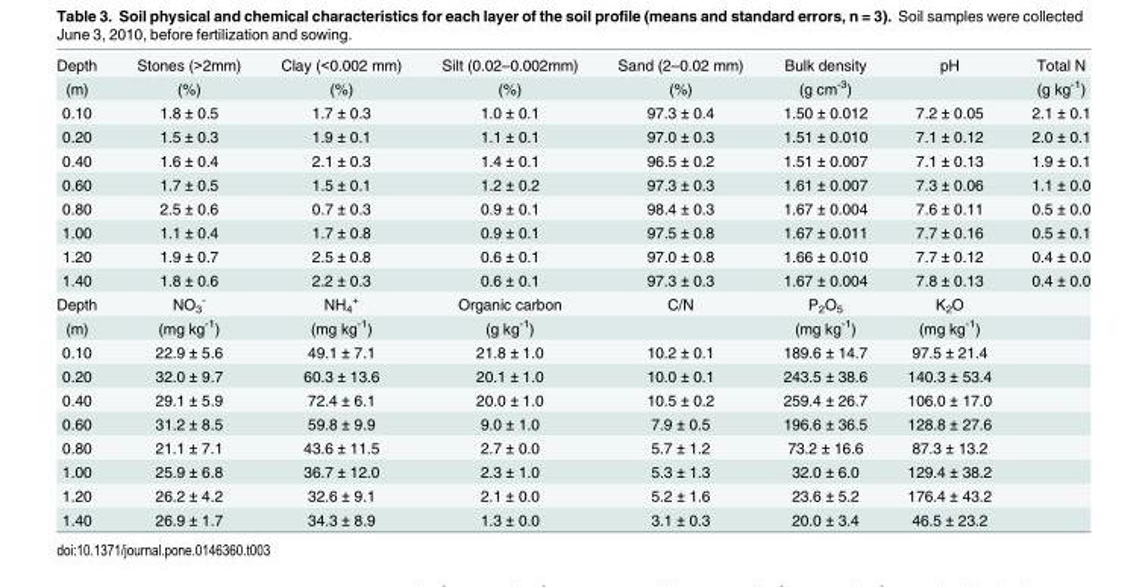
<table><tbody><tr><td>Depth</td><td>Stones (&gt;2mm)</td><td>Clay (&lt;0.002 mm)</td><td>Silt (0.02–0.002mm)</td><td>Sand (2–0.02 mm)</td><td>Bulk density</td><td>pH</td><td>Total N</td></tr><tr><td>(m)</td><td>(%)</td><td>(%)</td><td>(%)</td><td>(%)</td><td>(g cm<sup>-3</sup>)</td><td></td><td>(g kg<sup>-1</sup>)</td></tr><tr><td>0.10</td><td>1.8 ± 0.5</td><td>1.7 ± 0.3</td><td>1.0 ± 0.1</td><td>97.3 ± 0.4</td><td>1.50 ± 0.012</td><td>7.2 ± 0.05</td><td>2.1 ± 0.1</td></tr><tr><td>0.20</td><td>1.5 ± 0.3</td><td>1.9 ± 0.1</td><td>1.1 ± 0.1</td><td>97.0 ± 0.3</td><td>1.51 ± 0.010</td><td>7.1 ± 0.12</td><td>2.0 ± 0.1</td></tr><tr><td>0.40</td><td>1.6 ± 0.4</td><td>2.1 ± 0.3</td><td>1.4 ± 0.1</td><td>96.5 ± 0.2</td><td>1.51 ± 0.007</td><td>7.1 ± 0.13</td><td>1.9 ± 0.1</td></tr><tr><td>0.60</td><td>1.7 ± 0.5</td><td>1.5 ± 0.1</td><td>1.2 ± 0.2</td><td>97.3 ± 0.3</td><td>1.61 ± 0.007</td><td>7.3 ± 0.06</td><td>1.1 ± 0.0</td></tr><tr><td>0.80</td><td>2.5 ± 0.6</td><td>0.7 ± 0.3</td><td>0.9 ± 0.1</td><td>98.4 ± 0.3</td><td>1.67 ± 0.004</td><td>7.6 ± 0.11</td><td>0.5 ± 0.0</td></tr><tr><td>1.00</td><td>1.1 ± 0.4</td><td>1.7 ± 0.8</td><td>0.9 ± 0.1</td><td>97.5 ± 0.8</td><td>1.67 ± 0.011</td><td>7.7 ± 0.16</td><td>0.5 ± 0.1</td></tr><tr><td>1.20</td><td>1.9 ± 0.7</td><td>2.5 ± 0.8</td><td>0.6 ± 0.1</td><td>97.0 ± 0.8</td><td>1.66 ± 0.010</td><td>7.7 ± 0.12</td><td>0.4 ± 0.0</td></tr><tr><td>1.40</td><td>1.8 ± 0.6</td><td>2.2 ± 0.3</td><td>0.6 ± 0.1</td><td>97.3 ± 0.3</td><td>1.67 ± 0.004</td><td>7.8 ± 0.13</td><td>0.4 ± 0.0</td></tr><tr><td>Depth</td><td>NO<sub>3</sub> <sup>-</sup></td><td>NH<sub>4</sub> <sup>+</sup></td><td>Organic carbon</td><td>C/N</td><td>P<sub>2</sub>O<sub>5</sub></td><td>K<sub>2</sub>O</td><td></td></tr><tr><td>(m)</td><td>(mg kg<sup>-1</sup>)</td><td>(mg kg<sup>-1</sup>)</td><td>(g kg<sup>-1</sup>)</td><td></td><td>(mg kg<sup>-1</sup>)</td><td>(mg kg<sup>-1</sup>)</td><td></td></tr><tr><td>0.10</td><td>22.9 ± 5.6</td><td>49.1 ± 7.1</td><td>21.8 ± 1.0</td><td>10.2 ± 0.1</td><td>189.6 ± 14.7</td><td>97.5 ± 21.4</td><td></td></tr><tr><td>0.20</td><td>32.0 ± 9.7</td><td>60.3 ± 13.6</td><td>20.1 ± 1.0</td><td>10.0 ± 0.1</td><td>243.5 ± 38.6</td><td>140.3 ± 53.4</td><td></td></tr><tr><td>0.40</td><td>29.1 ± 5.9</td><td>72.4 ± 6.1</td><td>20.0 ± 1.0</td><td>10.5 ± 0.2</td><td>259.4 ± 26.7</td><td>106.0 ± 17.0</td><td></td></tr><tr><td>0.60</td><td>31.2 ± 8.5</td><td>59.8 ± 9.9</td><td>9.0 ± 1.0</td><td>7.9 ± 0.5</td><td>196.6 ± 36.5</td><td>128.8 ± 27.6</td><td></td></tr><tr><td>0.80</td><td>21.1 ± 7.1</td><td>43.6 ± 11.5</td><td>2.7 ± 0.0</td><td>5.7 ± 1.2</td><td>73.2 ± 16.6</td><td>87.3 ± 13.2</td><td></td></tr><tr><td>1.00</td><td>25.9 ± 6.8</td><td>36.7 ± 12.0</td><td>2.3 ± 1.0</td><td>5.3 ± 1.3</td><td>32.0 ± 6.0</td><td>129.4 ± 38.2</td><td></td></tr><tr><td>1.20</td><td>26.2 ± 4.2</td><td>32.6 ± 9.1</td><td>2.1 ± 0.0</td><td>5.2 ± 1.6</td><td>23.6 ± 5.2</td><td>176.4 ± 43.2</td><td></td></tr><tr><td>1.40</td><td>26.9 ± 1.7</td><td>34.3 ± 8.9</td><td>1.3 ± 0.0</td><td>3.1 ± 0.3</td><td>20.0 ± 3.4</td><td>46.5 ± 23.2</td><td></td></tr></tbody></table>